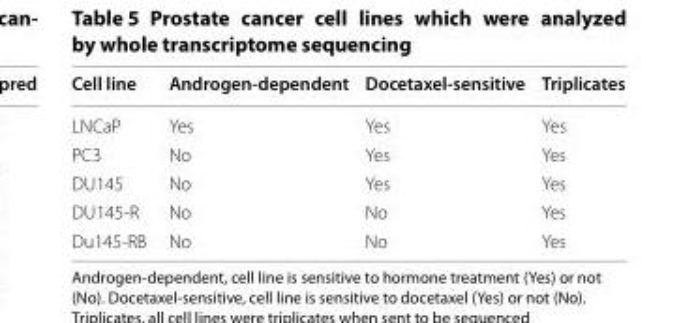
<table><thead><tr><td>Cell line</td><td>Androgen‑dependent</td><td>Docetaxel‑sensitive</td><td>Triplicates</td></tr></thead><tbody><tr><td>LNCaP</td><td>Yes</td><td>Yes</td><td>Yes</td></tr><tr><td>PC3</td><td>No</td><td>Yes</td><td>Yes</td></tr><tr><td>DU145</td><td>No</td><td>Yes</td><td>Yes</td></tr><tr><td>DU145-R</td><td>No</td><td>No</td><td>Yes</td></tr><tr><td>Du145-RB</td><td>No</td><td>No</td><td>Yes</td></tr></tbody></table>